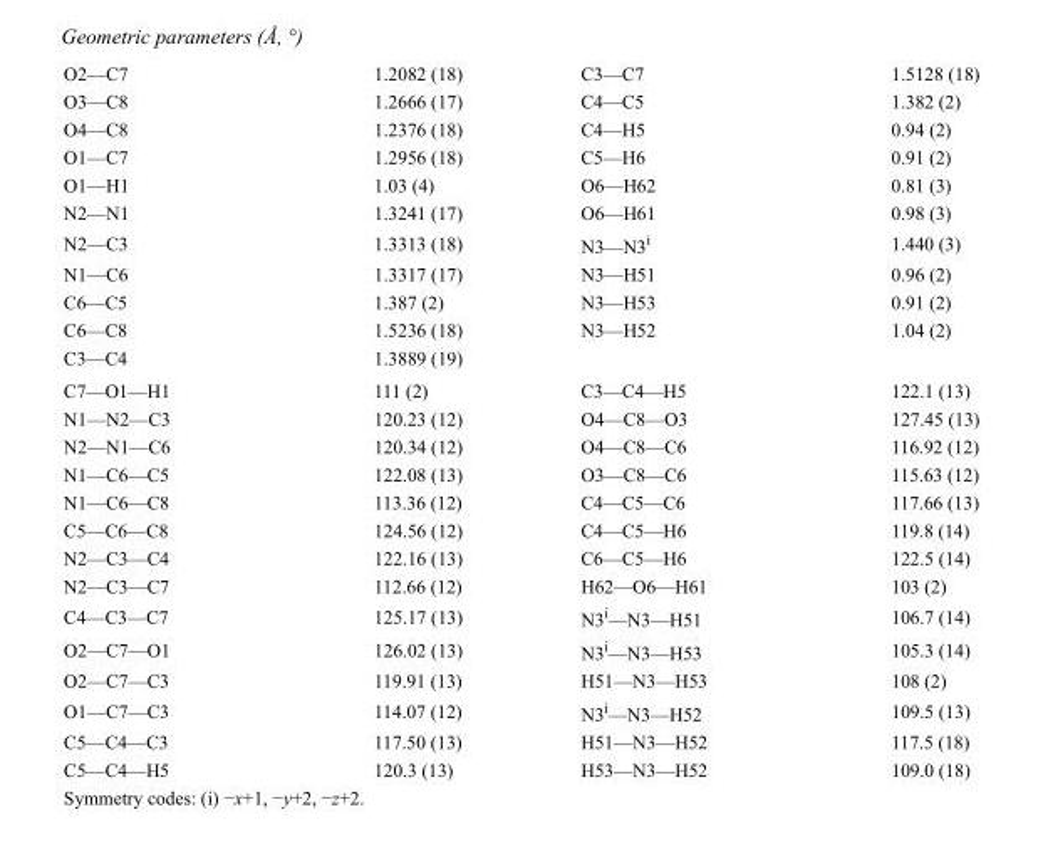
<table><tbody><tr><td>O2—C7</td><td>1.2082 (18)</td><td>C3—C7</td><td>1.5128 (18)</td></tr><tr><td>O3—C8</td><td>1.2666 (17)</td><td>C4—C5</td><td>1.382 (2)</td></tr><tr><td>O4—C8</td><td>1.2376 (18)</td><td>C4—H5</td><td>0.94 (2)</td></tr><tr><td>O1—C7</td><td>1.2956 (18)</td><td>C5—H6</td><td>0.91 (2)</td></tr><tr><td>O1—H1</td><td>1.03 (4)</td><td>O6—H62</td><td>0.81 (3)</td></tr><tr><td>N2—N1</td><td>1.3241 (17)</td><td>O6—H61</td><td>0.98 (3)</td></tr><tr><td>N2—C3</td><td>1.3313 (18)</td><td>N3—N3<sup>i</sup></td><td>1.440 (3)</td></tr><tr><td>N1—C6</td><td>1.3317 (17)</td><td>N3—H51</td><td>0.96 (2)</td></tr><tr><td>C6—C5</td><td>1.387 (2)</td><td>N3—H53</td><td>0.91 (2)</td></tr><tr><td>C6—C8</td><td>1.5236 (18)</td><td>N3—H52</td><td>1.04 (2)</td></tr><tr><td>C3—C4</td><td>1.3889 (19)</td><td></td><td></td></tr><tr><td>C7—O1—H1</td><td>111 (2)</td><td>C3—C4—H5</td><td>122.1 (13)</td></tr><tr><td>N1—N2—C3</td><td>120.23 (12)</td><td>O4—C8—O3</td><td>127.45 (13)</td></tr><tr><td>N2—N1—C6</td><td>120.34 (12)</td><td>O4—C8—C6</td><td>116.92 (12)</td></tr><tr><td>N1—C6—C5</td><td>122.08 (13)</td><td>O3—C8—C6</td><td>115.63 (12)</td></tr><tr><td>N1—C6—C8</td><td>113.36 (12)</td><td>C4—C5—C6</td><td>117.66 (13)</td></tr><tr><td>C5—C6—C8</td><td>124.56 (12)</td><td>C4—C5—H6</td><td>119.8 (14)</td></tr><tr><td>N2—C3—C4</td><td>122.16 (13)</td><td>C6—C5—H6</td><td>122.5 (14)</td></tr><tr><td>N2—C3—C7</td><td>112.66 (12)</td><td>H62—O6—H61</td><td>103 (2)</td></tr><tr><td>C4—C3—C7</td><td>125.17 (13)</td><td>N3<sup>i</sup>—N3—H51</td><td>106.7 (14)</td></tr><tr><td>O2—C7—O1</td><td>126.02 (13)</td><td>N3<sup>i</sup>—N3—H53</td><td>105.3 (14)</td></tr><tr><td>O2—C7—C3</td><td>119.91 (13)</td><td>H51—N3—H53</td><td>108 (2)</td></tr><tr><td>O1—C7—C3</td><td>114.07 (12)</td><td>N3<sup>i</sup>—N3—H52</td><td>109.5 (13)</td></tr><tr><td>C5—C4—C3</td><td>117.50 (13)</td><td>H51—N3—H52</td><td>117.5 (18)</td></tr><tr><td>C5—C4—H5</td><td>120.3 (13)</td><td>H53—N3—H52</td><td>109.0 (18)</td></tr></tbody></table>